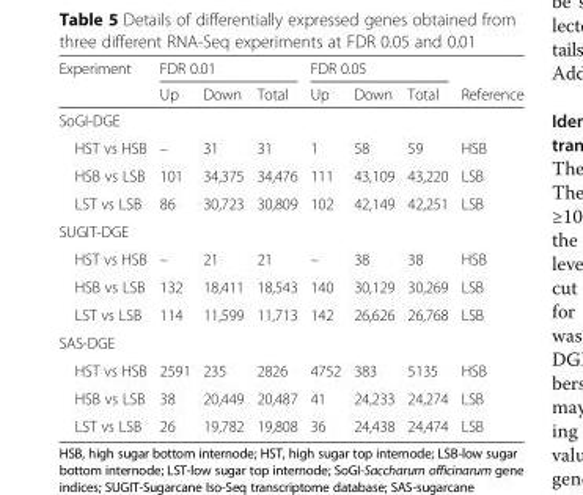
<table><thead><tr><td rowspan="2">Experiment</td><td colspan="3">FDR 0.01</td><td colspan="3">FDR 0.05</td><td rowspan="2">Reference</td></tr><tr><td>Up</td><td>Down</td><td>Total</td><td>Up</td><td>Down</td><td>Total</td></tr></thead><tbody><tr><td colspan="8">SoGI-DGE</td></tr><tr><td>HST vs HSB</td><td>–</td><td>31</td><td>31</td><td>1</td><td>58</td><td>59</td><td>HSB</td></tr><tr><td>HSB vs LSB</td><td>101</td><td>34,375</td><td>34,476</td><td>111</td><td>43,109</td><td>43,220</td><td>LSB</td></tr><tr><td>LST vs LSB</td><td>86</td><td>30,723</td><td>30,809</td><td>102</td><td>42,149</td><td>42,251</td><td>LSB</td></tr><tr><td colspan="8">SUGIT-DGE</td></tr><tr><td>HST vs HSB</td><td>–</td><td>21</td><td>21</td><td>–</td><td>38</td><td>38</td><td>HSB</td></tr><tr><td>HSB vs LSB</td><td>132</td><td>18,411</td><td>18,543</td><td>140</td><td>30,129</td><td>30,269</td><td>LSB</td></tr><tr><td>LST vs LSB</td><td>114</td><td>11,599</td><td>11,713</td><td>142</td><td>26,626</td><td>26,768</td><td>LSB</td></tr><tr><td colspan="8">SAS-DGE</td></tr><tr><td>HST vs HSB</td><td>2591</td><td>235</td><td>2826</td><td>4752</td><td>383</td><td>5135</td><td>HSB</td></tr><tr><td>HSB vs LSB</td><td>38</td><td>20,449</td><td>20,487</td><td>41</td><td>24,233</td><td>24,274</td><td>LSB</td></tr><tr><td>LST vs LSB</td><td>26</td><td>19,782</td><td>19,808</td><td>36</td><td>24,438</td><td>24,474</td><td>LSB</td></tr></tbody></table>